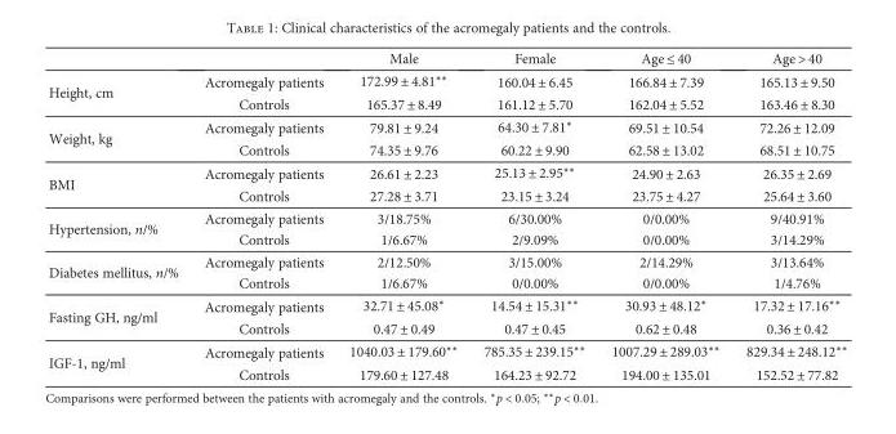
<table><thead><tr><td></td><td></td><td>Male</td><td>Female</td><td>Age ≤ 40</td><td>Age &gt; 40</td></tr></thead><tbody><tr><td rowspan="2">Height, cm</td><td>Acromegaly patients</td><td>172.99 ± 4.81∗∗</td><td>160.04 ± 6.45</td><td>166.84 ± 7.39</td><td>165.13 ± 9.50</td></tr><tr><td>Controls</td><td>165.37 ± 8.49</td><td>161.12 ± 5.70</td><td>162.04 ± 5.52</td><td>163.46 ± 8.30</td></tr><tr><td rowspan="2">Weight, kg</td><td>Acromegaly patients</td><td>79.81 ± 9.24</td><td>64.30 ± 7.81∗</td><td>69.51 ± 10.54</td><td>72.26 ± 12.09</td></tr><tr><td>Controls</td><td>74.35 ± 9.76</td><td>60.22 ± 9.90</td><td>62.58 ± 13.02</td><td>68.51 ± 10.75</td></tr><tr><td rowspan="2">BMI</td><td>Acromegaly patients</td><td>26.61 ± 2.23</td><td>25.13 ± 2.95∗∗</td><td>24.90 ± 2.63</td><td>26.35 ± 2.69</td></tr><tr><td>Controls</td><td>27.28 ± 3.71</td><td>23.15 ± 3.24</td><td>23.75 ± 4.27</td><td>25.64 ± 3.60</td></tr><tr><td rowspan="2">Hypertension, n/%</td><td>Acromegaly patients</td><td>3/18.75%</td><td>6/30.00%</td><td>0/0.00%</td><td>9/40.91%</td></tr><tr><td>Controls</td><td>1/6.67%</td><td>2/9.09%</td><td>0/0.00%</td><td>3/14.29%</td></tr><tr><td rowspan="2">Diabetes mellitus, n/%</td><td>Acromegaly patients</td><td>2/12.50%</td><td>3/15.00%</td><td>2/14.29%</td><td>3/13.64%</td></tr><tr><td>Controls</td><td>1/6.67%</td><td>0/0.00%</td><td>0/0.00%</td><td>1/4.76%</td></tr><tr><td rowspan="2">Fasting GH, ng/ml</td><td>Acromegaly patients</td><td>32.71 ± 45.08∗</td><td>14.54 ± 15.31∗∗</td><td>30.93 ± 48.12∗</td><td>17.32 ± 17.16∗∗</td></tr><tr><td>Controls</td><td>0.47 ± 0.49</td><td>0.47 ± 0.45</td><td>0.62 ± 0.48</td><td>0.36 ± 0.42</td></tr><tr><td rowspan="2">IGF-1, ng/ml</td><td>Acromegaly patients</td><td>1040.03 ± 179.60∗∗</td><td>785.35 ± 239.15∗∗</td><td>1007.29 ± 289.03∗∗</td><td>829.34 ± 248.12∗∗</td></tr><tr><td>Controls</td><td>179.60 ± 127.48</td><td>164.23 ± 92.72</td><td>194.00 ± 135.01</td><td>152.52 ± 77.82</td></tr></tbody></table>